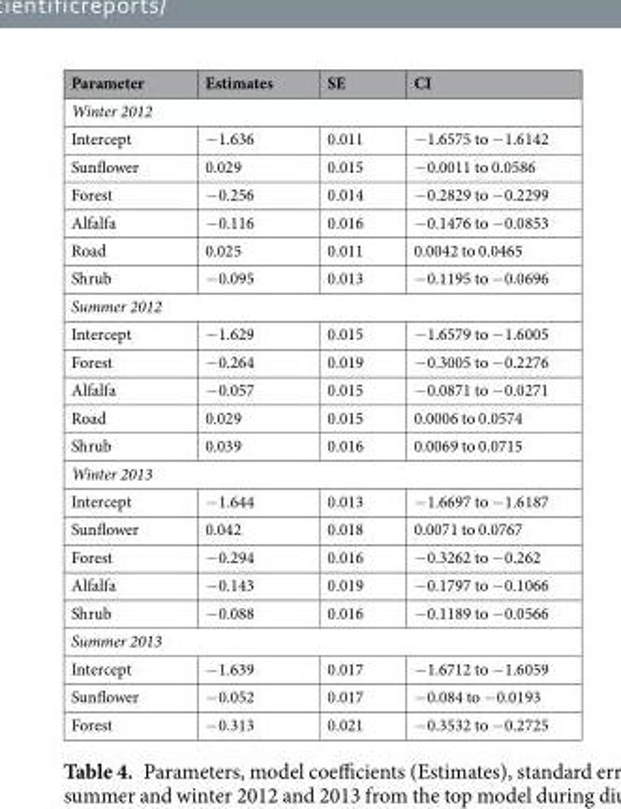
<table><thead><tr><td>Parameter</td><td>Estimates</td><td>SE</td><td>CI</td></tr></thead><tbody><tr><td colspan="4">Winter 2012</td></tr><tr><td>Intercept</td><td>−1.636</td><td>0.011</td><td>−1.6575 to −1.6142</td></tr><tr><td>Sunflower</td><td>0.029</td><td>0.015</td><td>−0.0011 to 0.0586</td></tr><tr><td>Forest</td><td>−0.256</td><td>0.014</td><td>−0.2829 to −0.2299</td></tr><tr><td>Alfalfa</td><td>−0.116</td><td>0.016</td><td>−0.1476 to −0.0853</td></tr><tr><td>Road</td><td>0.025</td><td>0.011</td><td>0.0042 to 0.0465</td></tr><tr><td>Shrub</td><td>−0.095</td><td>0.013</td><td>−0.1195 to −0.0696</td></tr><tr><td colspan="4">Summer 2012</td></tr><tr><td>Intercept</td><td>−1.629</td><td>0.015</td><td>−1.6579 to −1.6005</td></tr><tr><td>Forest</td><td>−0.264</td><td>0.019</td><td>−0.3005 to −0.2276</td></tr><tr><td>Alfalfa</td><td>−0.057</td><td>0.015</td><td>−0.0871 to −0.0271</td></tr><tr><td>Road</td><td>0.029</td><td>0.015</td><td>0.0006 to 0.0574</td></tr><tr><td>Shrub</td><td>0.039</td><td>0.016</td><td>0.0069 to 0.0715</td></tr><tr><td colspan="4">Winter 2013</td></tr><tr><td>Intercept</td><td>−1.644</td><td>0.013</td><td>−1.6697 to −1.6187</td></tr><tr><td>Sunflower</td><td>0.042</td><td>0.018</td><td>0.0071 to 0.0767</td></tr><tr><td>Forest</td><td>−0.294</td><td>0.016</td><td>−0.3262 to −0.262</td></tr><tr><td>Alfalfa</td><td>−0.143</td><td>0.019</td><td>−0.1797 to −0.1066</td></tr><tr><td>Shrub</td><td>−0.088</td><td>0.016</td><td>−0.1189 to −0.0566</td></tr><tr><td colspan="4">Summer 2013</td></tr><tr><td>Intercept</td><td>−1.639</td><td>0.017</td><td>−1.6712 to −1.6059</td></tr><tr><td>Sunflower</td><td>−0.052</td><td>0.017</td><td>−0.084 to −0.0193</td></tr><tr><td>Forest</td><td>−0.313</td><td>0.021</td><td>−0.3532 to −0.2725</td></tr></tbody></table>